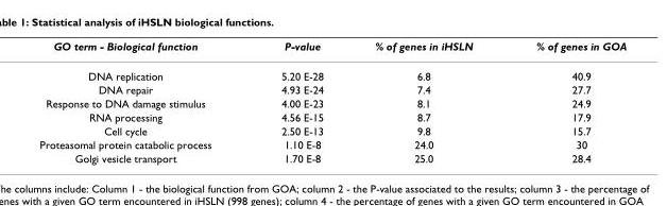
<table><thead><tr><td>GO term - Biological function</td><td>P-value</td><td>% of genes in iHSLN</td><td>% of genes in GOA</td></tr></thead><tbody><tr><td>DNA replication</td><td>5.20 E-28</td><td>6.8</td><td>40.9</td></tr><tr><td>DNA repair</td><td>4.93 E-24</td><td>7.4</td><td>27.7</td></tr><tr><td>Response to DNA damage stimulus</td><td>4.00 E-23</td><td>8.1</td><td>24.9</td></tr><tr><td>RNA processing</td><td>4.56 E-15</td><td>8.7</td><td>17.9</td></tr><tr><td>Cell cycle</td><td>2.50 E-13</td><td>9.8</td><td>15.7</td></tr><tr><td>Proteasomal protein catabolic process</td><td>1.10 E-8</td><td>24.0</td><td>30</td></tr><tr><td>Golgi vesicle transport</td><td>1.70 E-8</td><td>25.0</td><td>28.4</td></tr></tbody></table>